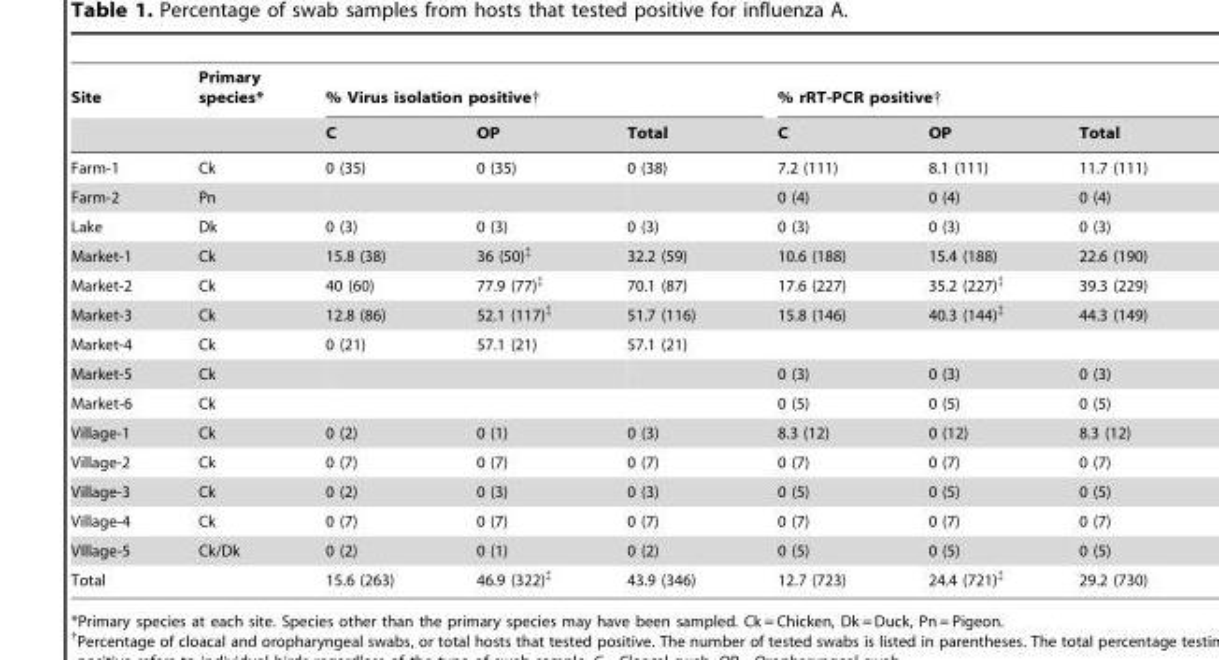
<table><thead><tr><td rowspan="2">Site</td><td rowspan="2">Primary species*</td><td colspan="3">% Virus isolation positive†</td><td colspan="3">% rRT-PCR positive†</td></tr><tr><td>C</td><td>OP</td><td>Total</td><td>C</td><td>OP</td><td>Total</td></tr></thead><tbody><tr><td>Farm-1</td><td>Ck</td><td>0 (35)</td><td>0 (35)</td><td>0 (38)</td><td>7.2 (111)</td><td>8.1 (111)</td><td>11.7 (111)</td></tr><tr><td>Farm-2</td><td>Pn</td><td></td><td></td><td></td><td>0 (4)</td><td>0 (4)</td><td>0 (4)</td></tr><tr><td>Lake</td><td>Dk</td><td>0 (3)</td><td>0 (3)</td><td>0 (3)</td><td>0 (3)</td><td>0 (3)</td><td>0 (3)</td></tr><tr><td>Market-1</td><td>Ck</td><td>15.8 (38)</td><td>36 (50)‡</td><td>32.2 (59)</td><td>10.6 (188)</td><td>15.4 (188)</td><td>22.6 (190)</td></tr><tr><td>Market-2</td><td>Ck</td><td>40 (60)</td><td>77.9 (77)‡</td><td>70.1 (87)</td><td>17.6 (227)</td><td>35.2 (227)‡</td><td>39.3 (229)</td></tr><tr><td>Market-3</td><td>Ck</td><td>12.8 (86)</td><td>52.1 (117)‡</td><td>51.7 (116)</td><td>15.8 (146)</td><td>40.3 (144)‡</td><td>44.3 (149)</td></tr><tr><td>Market-4</td><td>Ck</td><td>0 (21)</td><td>57.1 (21)</td><td>57.1 (21)</td><td></td><td></td><td></td></tr><tr><td>Market-5</td><td>Ck</td><td></td><td></td><td></td><td>0 (3)</td><td>0 (3)</td><td>0 (3)</td></tr><tr><td>Market-6</td><td>Ck</td><td></td><td></td><td></td><td>0 (5)</td><td>0 (5)</td><td>0 (5)</td></tr><tr><td>Village-1</td><td>Ck</td><td>0 (2)</td><td>0 (1)</td><td>0 (3)</td><td>8.3 (12)</td><td>0 (12)</td><td>8.3 (12)</td></tr><tr><td>Village-2</td><td>Ck</td><td>0 (7)</td><td>0 (7)</td><td>0 (7)</td><td>0 (7)</td><td>0 (7)</td><td>0 (7)</td></tr><tr><td>Village-3</td><td>Ck</td><td>0 (2)</td><td>0 (3)</td><td>0 (3)</td><td>0 (5)</td><td>0 (5)</td><td>0 (5)</td></tr><tr><td>Village-4</td><td>Ck</td><td>0 (7)</td><td>0 (7)</td><td>0 (7)</td><td>0 (7)</td><td>0 (7)</td><td>0 (7)</td></tr><tr><td>VIllage-5</td><td>Ck/Dk</td><td>0 (2)</td><td>0 (1)</td><td>0 (2)</td><td>0 (5)</td><td>0 (5)</td><td>0 (5)</td></tr><tr><td>Total</td><td></td><td>15.6 (263)</td><td>46.9 (322)‡</td><td>43.9 (346)</td><td>12.7 (723)</td><td>24.4 (721)‡</td><td>29.2 (730)</td></tr></tbody></table>